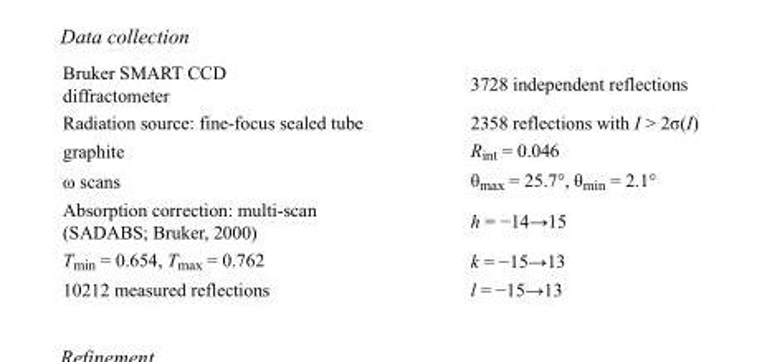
<table><tbody><tr><td>Bruker SMART CCD diffractometer</td><td>3728 independent reflections</td></tr><tr><td>Radiation source: fine-focus sealed tube</td><td>2358 reflections with I &gt; 2σ(I)</td></tr><tr><td>graphite</td><td>R<sub>int</sub> = 0.046</td></tr><tr><td>ω scans</td><td>θ<sub>max</sub> = 25.7°, θ<sub>min</sub> = 2.1°</td></tr><tr><td>Absorption correction: multi-scan (SADABS; Bruker, 2000)</td><td>h = −14→15</td></tr><tr><td>T<sub>min</sub> = 0.654, T<sub>max</sub> = 0.762</td><td>k = −15→13</td></tr><tr><td>10212 measured reflections</td><td>l = −15→13</td></tr></tbody></table>